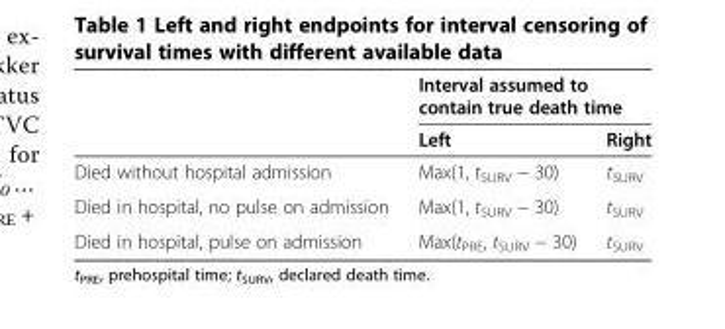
<table><thead><tr><td rowspan="2"></td><td colspan="2">Interval assumed to contain true death time</td></tr><tr><td>Left</td><td>Right</td></tr></thead><tbody><tr><td>Died without hospital admission</td><td>Max(1, t<sub>SURV</sub> − 30)</td><td>t<sub>SURV</sub></td></tr><tr><td>Died in hospital, no pulse on admission</td><td>Max(1, t<sub>SURV</sub> − 30)</td><td>t<sub>SURV</sub></td></tr><tr><td>Died in hospital, pulse on admission</td><td>Max(t<sub>PRE</sub>, t<sub>SURV</sub> − 30)</td><td>t<sub>SURV</sub></td></tr></tbody></table>